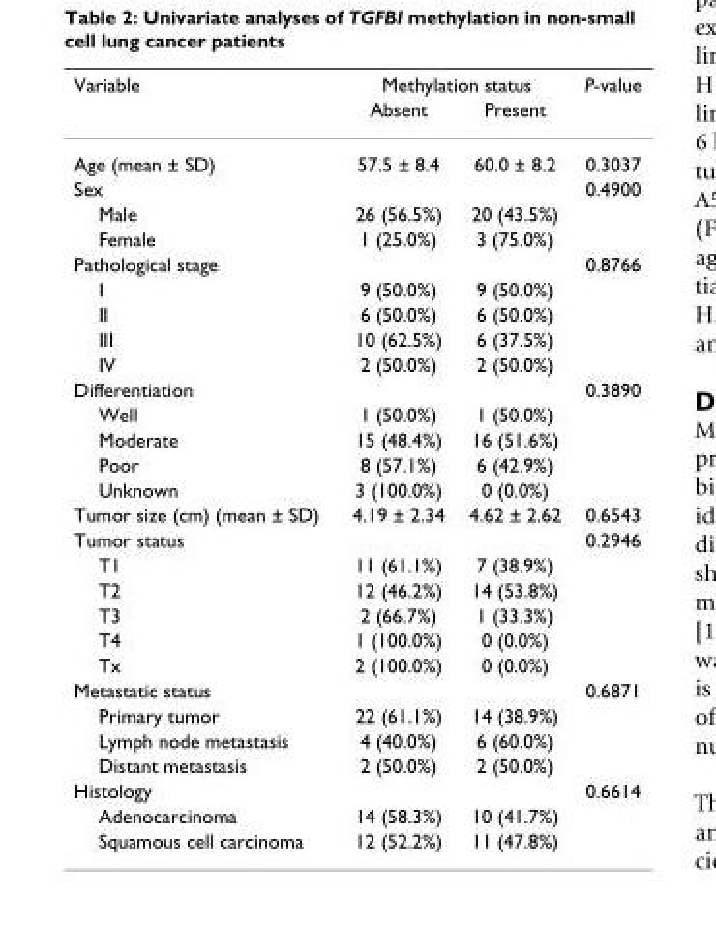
<table><thead><tr><td rowspan="2">Variable</td><td colspan="2">Methylation status</td><td rowspan="2">P-value</td></tr><tr><td>Absent</td><td>Present</td></tr></thead><tbody><tr><td>Age (mean ± SD)</td><td>57.5 ± 8.4</td><td>60.0 ± 8.2</td><td>0.3037</td></tr><tr><td>Sex</td><td></td><td></td><td>0.4900</td></tr><tr><td>Male</td><td>26 (56.5%)</td><td>20 (43.5%)</td><td></td></tr><tr><td>Female</td><td>1 (25.0%)</td><td>3 (75.0%)</td><td></td></tr><tr><td>Pathological stage</td><td></td><td></td><td>0.8766</td></tr><tr><td>I</td><td>9 (50.0%)</td><td>9 (50.0%)</td><td></td></tr><tr><td>II</td><td>6 (50.0%)</td><td>6 (50.0%)</td><td></td></tr><tr><td>III</td><td>10 (62.5%)</td><td>6 (37.5%)</td><td></td></tr><tr><td>IV</td><td>2 (50.0%)</td><td>2 (50.0%)</td><td></td></tr><tr><td>Differentiation</td><td></td><td></td><td>0.3890</td></tr><tr><td>Well</td><td>1 (50.0%)</td><td>1 (50.0%)</td><td></td></tr><tr><td>Moderate</td><td>15 (48.4%)</td><td>16 (51.6%)</td><td></td></tr><tr><td>Poor</td><td>8 (57.1%)</td><td>6 (42.9%)</td><td></td></tr><tr><td>Unknown</td><td>3 (100.0%)</td><td>0 (0.0%)</td><td></td></tr><tr><td>Tumor size (cm) (mean ± SD)</td><td>4.19 ± 2.34</td><td>4.62 ± 2.62</td><td>0.6543</td></tr><tr><td>Tumor status</td><td></td><td></td><td>0.2946</td></tr><tr><td>T1</td><td>11 (61.1%)</td><td>7 (38.9%)</td><td></td></tr><tr><td>T2</td><td>12 (46.2%)</td><td>14 (53.8%)</td><td></td></tr><tr><td>T3</td><td>2 (66.7%)</td><td>1 (33.3%)</td><td></td></tr><tr><td>T4</td><td>1 (100.0%)</td><td>0 (0.0%)</td><td></td></tr><tr><td>Tx</td><td>2 (100.0%)</td><td>0 (0.0%)</td><td></td></tr><tr><td>Metastatic status</td><td></td><td></td><td>0.6871</td></tr><tr><td>Primary tumor</td><td>22 (61.1%)</td><td>14 (38.9%)</td><td></td></tr><tr><td>Lymph node metastasis</td><td>4 (40.0%)</td><td>6 (60.0%)</td><td></td></tr><tr><td>Distant metastasis</td><td>2 (50.0%)</td><td>2 (50.0%)</td><td></td></tr><tr><td>Histology</td><td></td><td></td><td>0.6614</td></tr><tr><td>Adenocarcinoma</td><td>14 (58.3%)</td><td>10 (41.7%)</td><td></td></tr><tr><td>Squamous cell carcinoma</td><td>12 (52.2%)</td><td>11 (47.8%)</td><td></td></tr></tbody></table>